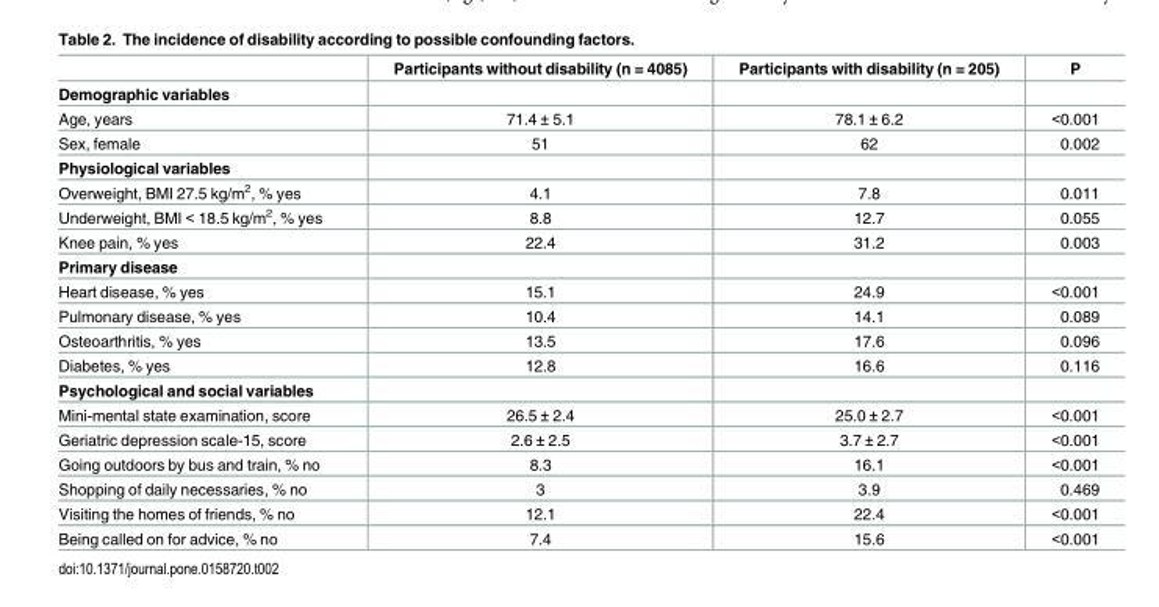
<table><thead><tr><td></td><td>Participants without disability (n = 4085)</td><td>Participants with disability (n = 205)</td><td>P</td></tr></thead><tbody><tr><td colspan="4">Demographic variables</td></tr><tr><td>Age, years</td><td>71.4 ± 5.1</td><td>78.1 ± 6.2</td><td>&lt;0.001</td></tr><tr><td>Sex, female</td><td>51</td><td>62</td><td>0.002</td></tr><tr><td colspan="4">Physiological variables</td></tr><tr><td>Overweight, BMI 27.5 kg/m<sup>2</sup>, % yes</td><td>4.1</td><td>7.8</td><td>0.011</td></tr><tr><td>Underweight, BMI &lt; 18.5 kg/m<sup>2</sup>, % yes</td><td>8.8</td><td>12.7</td><td>0.055</td></tr><tr><td>Knee pain, % yes</td><td>22.4</td><td>31.2</td><td>0.003</td></tr><tr><td colspan="4">Primary disease</td></tr><tr><td>Heart disease, % yes</td><td>15.1</td><td>24.9</td><td>&lt;0.001</td></tr><tr><td>Pulmonary disease, % yes</td><td>10.4</td><td>14.1</td><td>0.089</td></tr><tr><td>Osteoarthritis, % yes</td><td>13.5</td><td>17.6</td><td>0.096</td></tr><tr><td>Diabetes, % yes</td><td>12.8</td><td>16.6</td><td>0.116</td></tr><tr><td colspan="4">Psychological and social variables</td></tr><tr><td>Mini-mental state examination, score</td><td>26.5 ± 2.4</td><td>25.0 ± 2.7</td><td>&lt;0.001</td></tr><tr><td>Geriatric depression scale-15, score</td><td>2.6 ± 2.5</td><td>3.7 ± 2.7</td><td>&lt;0.001</td></tr><tr><td>Going outdoors by bus and train, % no</td><td>8.3</td><td>16.1</td><td>&lt;0.001</td></tr><tr><td>Shopping of daily necessaries, % no</td><td>3</td><td>3.9</td><td>0.469</td></tr><tr><td>Visiting the homes of friends, % no</td><td>12.1</td><td>22.4</td><td>&lt;0.001</td></tr><tr><td>Being called on for advice, % no</td><td>7.4</td><td>15.6</td><td>&lt;0.001</td></tr></tbody></table>